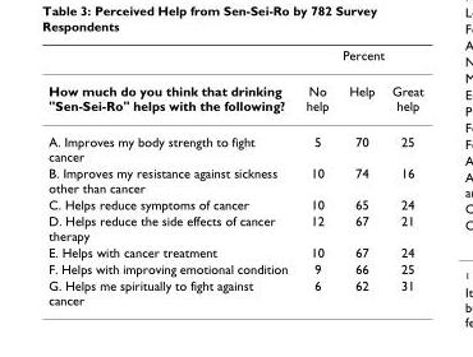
<table><thead><tr><td rowspan="2">How much do you think that drinking &quot;Sen-Sei-Ro&quot; helps with the following?</td><td colspan="3">Percent</td></tr><tr><td>No help</td><td>Help</td><td>Great help</td></tr></thead><tbody><tr><td>A. Improves my body strength to fight cancer</td><td>5</td><td>70</td><td>25</td></tr><tr><td>B. Improves my resistance against sickness other than cancer</td><td>10</td><td>74</td><td>16</td></tr><tr><td>C. Helps reduce symptoms of cancer</td><td>10</td><td>65</td><td>24</td></tr><tr><td>D. Helps reduce the side effects of cancer therapy</td><td>12</td><td>67</td><td>21</td></tr><tr><td>E. Helps with cancer treatment</td><td>10</td><td>67</td><td>24</td></tr><tr><td>F. Helps with improving emotional condition</td><td>9</td><td>66</td><td>25</td></tr><tr><td>G. Helps me spiritually to fight against cancer</td><td>6</td><td>62</td><td>31</td></tr></tbody></table>